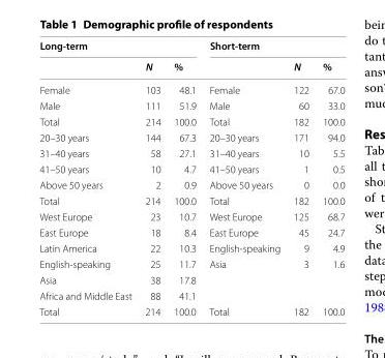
<table><thead><tr><td colspan="3">Long‑term</td><td colspan="3">Short‑term</td></tr><tr><td></td><td>N</td><td>%</td><td></td><td>N</td><td>%</td></tr></thead><tbody><tr><td>Female</td><td>103</td><td>48.1</td><td>Female</td><td>122</td><td>67.0</td></tr><tr><td>Male</td><td>111</td><td>51.9</td><td>Male</td><td>60</td><td>33.0</td></tr><tr><td>Total</td><td>214</td><td>100.0</td><td>Total</td><td>182</td><td>100.0</td></tr><tr><td>20–30 years</td><td>144</td><td>67.3</td><td>20–30 years</td><td>171</td><td>94.0</td></tr><tr><td>31–40 years</td><td>58</td><td>27.1</td><td>31–40 years</td><td>10</td><td>5.5</td></tr><tr><td>41–50 years</td><td>10</td><td>4.7</td><td>41–50 years</td><td>1</td><td>0.5</td></tr><tr><td>Above 50 years</td><td>2</td><td>0.9</td><td>Above 50 years</td><td>0</td><td>0.0</td></tr><tr><td>Total</td><td>214</td><td>100.0</td><td>Total</td><td>182</td><td>100.0</td></tr><tr><td>West Europe</td><td>23</td><td>10.7</td><td>West Europe</td><td>125</td><td>68.7</td></tr><tr><td>East Europe</td><td>18</td><td>8.4</td><td>East Europe</td><td>45</td><td>24.7</td></tr><tr><td>Latin America</td><td>22</td><td>10.3</td><td>English-speaking</td><td>9</td><td>4.9</td></tr><tr><td>English-speaking</td><td>25</td><td>11.7</td><td>Asia</td><td>3</td><td>1.6</td></tr><tr><td>Asia</td><td>38</td><td>17.8</td><td></td><td></td><td></td></tr><tr><td>Africa and Middle East</td><td>88</td><td>41.1</td><td></td><td></td><td></td></tr><tr><td>Total</td><td>214</td><td>100.0</td><td>Total</td><td>182</td><td>100.0</td></tr></tbody></table>